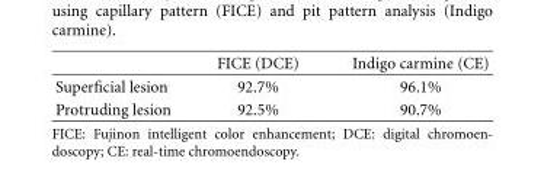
<table><thead><tr><td></td><td>FICE (DCE)</td><td>Indigo carmine (CE)</td></tr></thead><tbody><tr><td>Superficial lesion</td><td>92.7%</td><td>96.1%</td></tr><tr><td>Protruding lesion</td><td>92.5%</td><td>90.7%</td></tr></tbody></table>